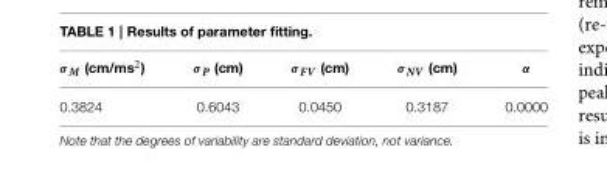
<table><thead><tr><td>σM (cm/ms2)</td><td>σ<sub>P</sub> (cm)</td><td>σ<sub>FV</sub> (cm)</td><td>σ<sub>NV</sub> (cm)</td><td>α</td></tr></thead><tbody><tr><td>0.3824</td><td>0.6043</td><td>0.0450</td><td>0.3187</td><td>0.0000</td></tr></tbody></table>